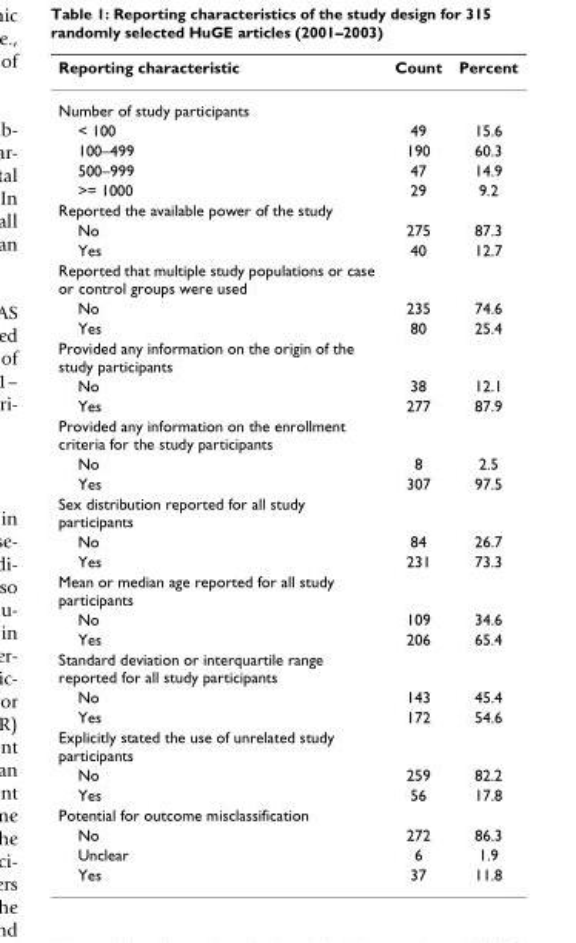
<table><thead><tr><td>Reporting characteristic</td><td>Count</td><td>Percent</td></tr></thead><tbody><tr><td colspan="3">Number of study participants</td></tr><tr><td>&lt; 100</td><td>49</td><td>15.6</td></tr><tr><td>100–499</td><td>190</td><td>60.3</td></tr><tr><td>500–999</td><td>47</td><td>14.9</td></tr><tr><td>&gt;= 1000</td><td>29</td><td>9.2</td></tr><tr><td colspan="3">Reported the available power of the study</td></tr><tr><td>No</td><td>275</td><td>87.3</td></tr><tr><td>Yes</td><td>40</td><td>12.7</td></tr><tr><td colspan="3">Reported that multiple study populations or case or control groups were used</td></tr><tr><td>No</td><td>235</td><td>74.6</td></tr><tr><td>Yes</td><td>80</td><td>25.4</td></tr><tr><td colspan="3">Provided any information on the origin of the study participants</td></tr><tr><td>No</td><td>38</td><td>12.1</td></tr><tr><td>Yes</td><td>277</td><td>87.9</td></tr><tr><td colspan="3">Provided any information on the enrollment criteria for the study participants</td></tr><tr><td>No</td><td>8</td><td>2.5</td></tr><tr><td>Yes</td><td>307</td><td>97.5</td></tr><tr><td colspan="3">Sex distribution reported for all study participants</td></tr><tr><td>No</td><td>84</td><td>26.7</td></tr><tr><td>Yes</td><td>231</td><td>73.3</td></tr><tr><td colspan="3">Mean or median age reported for all study participants</td></tr><tr><td>No</td><td>109</td><td>34.6</td></tr><tr><td>Yes</td><td>206</td><td>65.4</td></tr><tr><td colspan="3">Standard deviation or interquartile range reported for all study participants</td></tr><tr><td>No</td><td>143</td><td>45.4</td></tr><tr><td>Yes</td><td>172</td><td>54.6</td></tr><tr><td colspan="3">Explicitly stated the use of unrelated study participants</td></tr><tr><td>No</td><td>259</td><td>82.2</td></tr><tr><td>Yes</td><td>56</td><td>17.8</td></tr><tr><td colspan="3">Potential for outcome misclassification</td></tr><tr><td>No</td><td>272</td><td>86.3</td></tr><tr><td>Unclear</td><td>6</td><td>1.9</td></tr><tr><td>Yes</td><td>37</td><td>11.8</td></tr></tbody></table>